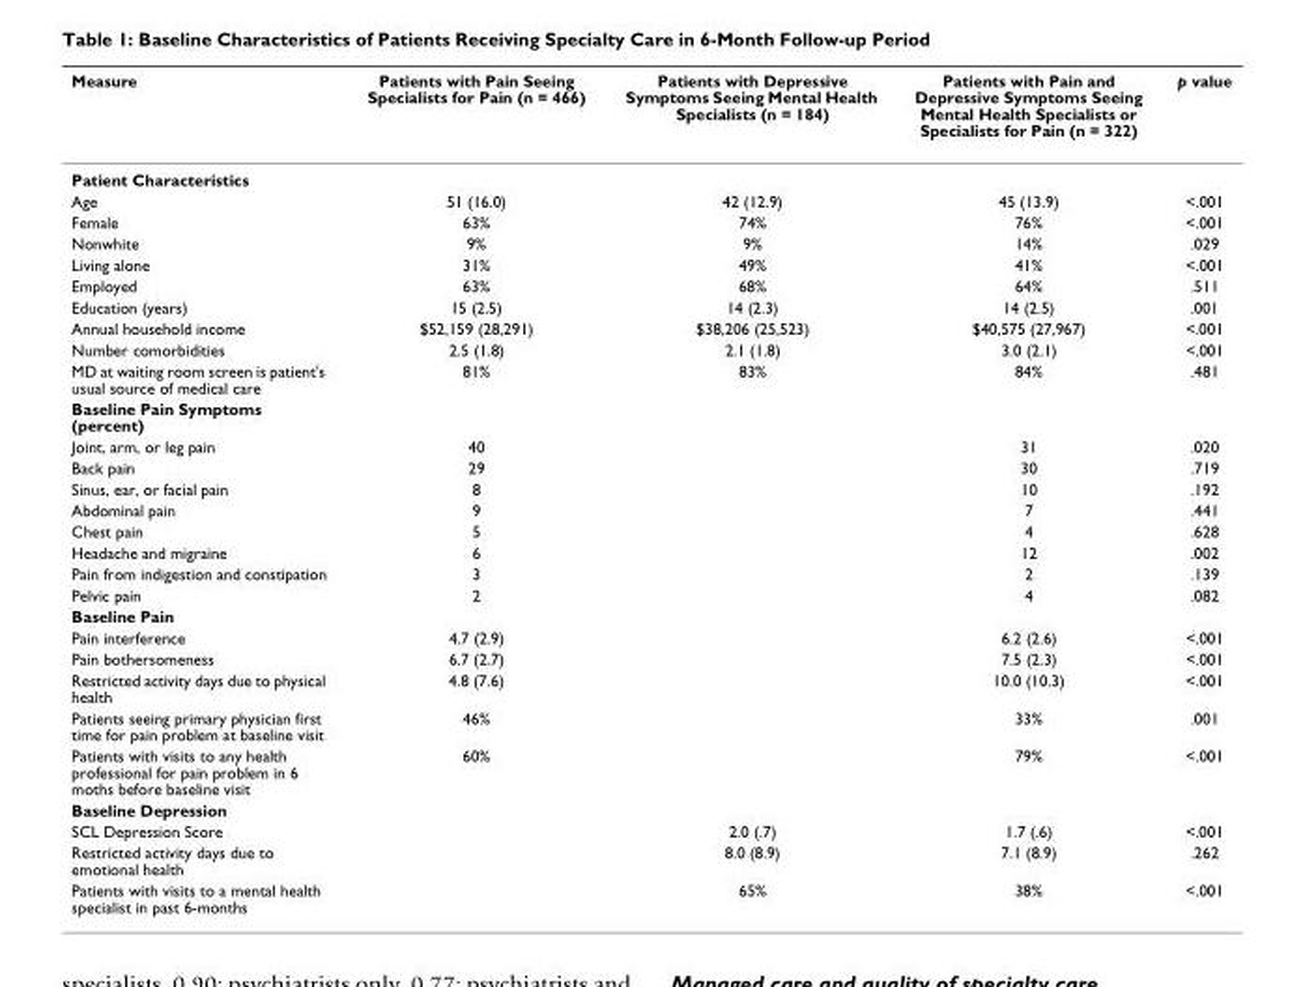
<table><thead><tr><td>Measure</td><td>Patients with Pain Seeing Specialists for Pain (n = 466)</td><td>Patients with Depressive Symptoms Seeing Mental Health Specialists (n = 184)</td><td>Patients with Pain and Depressive Symptoms Seeing Mental Health Specialists or Specialists for Pain (n = 322)</td><td>p value</td></tr></thead><tbody><tr><td colspan="5">Patient Characteristics</td></tr><tr><td>Age</td><td>51 (16.0)</td><td>42 (12.9)</td><td>45 (13.9)</td><td>&lt;.001</td></tr><tr><td>Female</td><td>63%</td><td>74%</td><td>76%</td><td>&lt;.001</td></tr><tr><td>Nonwhite</td><td>9%</td><td>9%</td><td>14%</td><td>.029</td></tr><tr><td>Living alone</td><td>31%</td><td>49%</td><td>41%</td><td>&lt;.001</td></tr><tr><td>Employed</td><td>63%</td><td>68%</td><td>64%</td><td>.511</td></tr><tr><td>Education (years)</td><td>15 (2.5)</td><td>14 (2.3)</td><td>14 (2.5)</td><td>.001</td></tr><tr><td>Annual household income</td><td>$52,159 (28,291)</td><td>$38,206 (25,523)</td><td>$40,575 (27,967)</td><td>&lt;.001</td></tr><tr><td>Number comorbidities</td><td>2.5 (1.8)</td><td>2.1 (1.8)</td><td>3.0 (2.1)</td><td>&lt;.001</td></tr><tr><td>MD at waiting room screen is patient&#x27;s usual source of medical care</td><td>81%</td><td>83%</td><td>84%</td><td>.481</td></tr><tr><td colspan="5">Baseline Pain Symptoms (percent)</td></tr><tr><td>Joint, arm, or leg pain</td><td>40</td><td></td><td>31</td><td>.020</td></tr><tr><td>Back pain</td><td>29</td><td></td><td>30</td><td>.719</td></tr><tr><td>Sinus, ear, or facial pain</td><td>8</td><td></td><td>10</td><td>.192</td></tr><tr><td>Abdominal pain</td><td>9</td><td></td><td>7</td><td>.441</td></tr><tr><td>Chest pain</td><td>5</td><td></td><td>4</td><td>.628</td></tr><tr><td>Headache and migraine</td><td>6</td><td></td><td>12</td><td>.002</td></tr><tr><td>Pain from indigestion and constipation</td><td>3</td><td></td><td>2</td><td>.139</td></tr><tr><td>Pelvic pain</td><td>2</td><td></td><td>4</td><td>.082</td></tr><tr><td colspan="5">Baseline Pain</td></tr><tr><td>Pain interference</td><td>4.7 (2.9)</td><td></td><td>6.2 (2.6)</td><td>&lt;.001</td></tr><tr><td>Pain bothersomeness</td><td>6.7 (2.7)</td><td></td><td>7.5 (2.3)</td><td>&lt;.001</td></tr><tr><td>Restricted activity days due to physical health</td><td>4.8 (7.6)</td><td></td><td>10.0 (10.3)</td><td>&lt;.001</td></tr><tr><td>Patients seeing primary physician first time for pain problem at baseline visit</td><td>46%</td><td></td><td>33%</td><td>.001</td></tr><tr><td>Patients with visits to any health professional for pain problem in 6 moths before baseline visit</td><td>60%</td><td></td><td>79%</td><td>&lt;.001</td></tr><tr><td colspan="5">Baseline Depression</td></tr><tr><td>SCL Depression Score</td><td></td><td>2.0 (.7)</td><td>1.7 (.6)</td><td>&lt;.001</td></tr><tr><td>Restricted activity days due to emotional health</td><td></td><td>8.0 (8.9)</td><td>7.1 (8.9)</td><td>.262</td></tr><tr><td>Patients with visits to a mental health specialist in past 6-months</td><td></td><td>65%</td><td>38%</td><td>&lt;.001</td></tr></tbody></table>